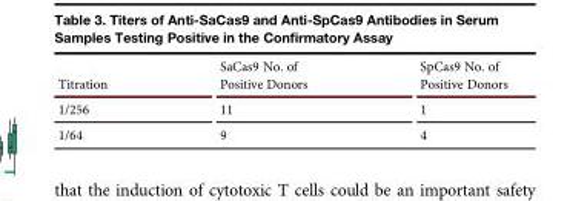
<table><thead><tr><td>Titration</td><td>SaCas9 No. of Positive Donors</td><td>SpCas9 No. of Positive Donors</td></tr></thead><tbody><tr><td>1/256</td><td>11</td><td>1</td></tr><tr><td>1/64</td><td>9</td><td>4</td></tr></tbody></table>